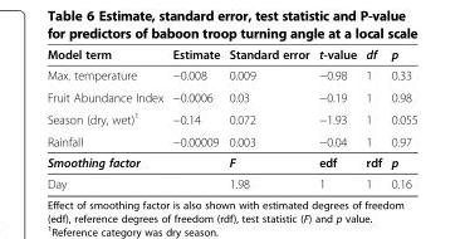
<table><thead><tr><td>Model term</td><td>Estimate</td><td>Standard error</td><td>t-value</td><td>df</td><td>p</td></tr></thead><tbody><tr><td>Max. temperature</td><td>−0.008</td><td>0.009</td><td>−0.98</td><td>1</td><td>0.33</td></tr><tr><td>Fruit Abundance Index</td><td>−0.0006</td><td>0.03</td><td>−0.19</td><td>1</td><td>0.98</td></tr><tr><td>Season (dry, wet)<sup>1</sup></td><td>−0.14</td><td>0.072</td><td>−1.93</td><td>1</td><td>0.055</td></tr><tr><td>Rainfall</td><td>−0.00009</td><td>0.003</td><td>−0.04</td><td>1</td><td>0.97</td></tr><tr><td>Smoothing factor</td><td></td><td>F</td><td>edf</td><td>rdf</td><td>p</td></tr><tr><td>Day</td><td></td><td>1.98</td><td>1</td><td>1</td><td>0.16</td></tr></tbody></table>